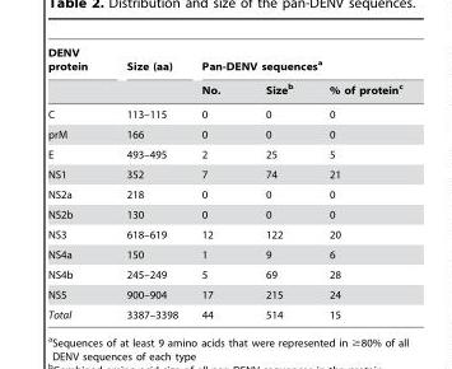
<table><thead><tr><td rowspan="2">DENV protein</td><td rowspan="2">Size (aa)</td><td colspan="3">Pan-DENV sequences<sup>a</sup></td></tr><tr><td>No.</td><td>Size<sup>b</sup></td><td>% of protein<sup>c</sup></td></tr></thead><tbody><tr><td>C</td><td>113–115</td><td>0</td><td>0</td><td>0</td></tr><tr><td>prM</td><td>166</td><td>0</td><td>0</td><td>0</td></tr><tr><td>E</td><td>493–495</td><td>2</td><td>25</td><td>5</td></tr><tr><td>NS1</td><td>352</td><td>7</td><td>74</td><td>21</td></tr><tr><td>NS2a</td><td>218</td><td>0</td><td>0</td><td>0</td></tr><tr><td>NS2b</td><td>130</td><td>0</td><td>0</td><td>0</td></tr><tr><td>NS3</td><td>618–619</td><td>12</td><td>122</td><td>20</td></tr><tr><td>NS4a</td><td>150</td><td>1</td><td>9</td><td>6</td></tr><tr><td>NS4b</td><td>245–249</td><td>5</td><td>69</td><td>28</td></tr><tr><td>NS5</td><td>900–904</td><td>17</td><td>215</td><td>24</td></tr><tr><td>Total</td><td>3387–3398</td><td>44</td><td>514</td><td>15</td></tr></tbody></table>